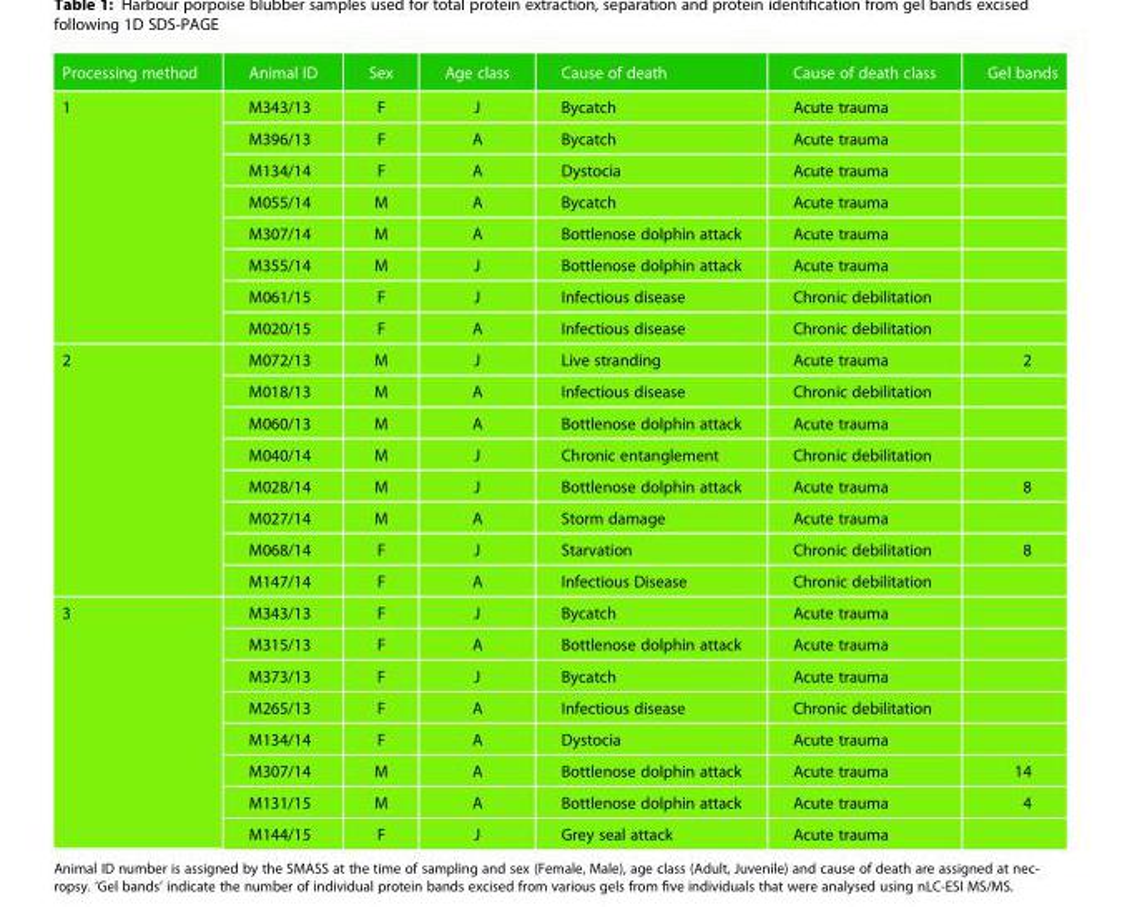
<table><thead><tr><td>Processing method</td><td>Animal ID</td><td>Sex</td><td>Age class</td><td>Cause of death</td><td>Cause of death class</td><td>Gel bands</td></tr></thead><tbody><tr><td rowspan="8">1</td><td>M343/13</td><td>F</td><td>J</td><td>Bycatch</td><td>Acute trauma</td><td></td></tr><tr><td>M396/13</td><td>F</td><td>A</td><td>Bycatch</td><td>Acute trauma</td><td></td></tr><tr><td>M134/14</td><td>F</td><td>A</td><td>Dystocia</td><td>Acute trauma</td><td></td></tr><tr><td>M055/14</td><td>M</td><td>A</td><td>Bycatch</td><td>Acute trauma</td><td></td></tr><tr><td>M307/14</td><td>M</td><td>A</td><td>Bottlenose dolphin attack</td><td>Acute trauma</td><td></td></tr><tr><td>M355/14</td><td>M</td><td>J</td><td>Bottlenose dolphin attack</td><td>Acute trauma</td><td></td></tr><tr><td>M061/15</td><td>F</td><td>J</td><td>Infectious disease</td><td>Chronic debilitation</td><td></td></tr><tr><td>M020/15</td><td>F</td><td>A</td><td>Infectious disease</td><td>Chronic debilitation</td><td></td></tr><tr><td rowspan="8">2</td><td>M072/13</td><td>M</td><td>J</td><td>Live stranding</td><td>Acute trauma</td><td>2</td></tr><tr><td>M018/13</td><td>M</td><td>A</td><td>Infectious disease</td><td>Chronic debilitation</td><td></td></tr><tr><td>M060/13</td><td>M</td><td>A</td><td>Bottlenose dolphin attack</td><td>Acute trauma</td><td></td></tr><tr><td>M040/14</td><td>M</td><td>J</td><td>Chronic entanglement</td><td>Chronic debilitation</td><td></td></tr><tr><td>M028/14</td><td>M</td><td>J</td><td>Bottlenose dolphin attack</td><td>Acute trauma</td><td>8</td></tr><tr><td>M027/14</td><td>M</td><td>A</td><td>Storm damage</td><td>Acute trauma</td><td></td></tr><tr><td>M068/14</td><td>F</td><td>J</td><td>Starvation</td><td>Chronic debilitation</td><td>8</td></tr><tr><td>M147/14</td><td>F</td><td>A</td><td>Infectious Disease</td><td>Chronic debilitation</td><td></td></tr><tr><td rowspan="8">3</td><td>M343/13</td><td>F</td><td>J</td><td>Bycatch</td><td>Acute trauma</td><td></td></tr><tr><td>M315/13</td><td>F</td><td>A</td><td>Bottlenose dolphin attack</td><td>Acute trauma</td><td></td></tr><tr><td>M373/13</td><td>F</td><td>J</td><td>Bycatch</td><td>Acute trauma</td><td></td></tr><tr><td>M265/13</td><td>F</td><td>A</td><td>Infectious disease</td><td>Chronic debilitation</td><td></td></tr><tr><td>M134/14</td><td>F</td><td>A</td><td>Dystocia</td><td>Acute trauma</td><td></td></tr><tr><td>M307/14</td><td>M</td><td>A</td><td>Bottlenose dolphin attack</td><td>Acute trauma</td><td>14</td></tr><tr><td>M131/15</td><td>M</td><td>A</td><td>Bottlenose dolphin attack</td><td>Acute trauma</td><td>4</td></tr><tr><td>M144/15</td><td>F</td><td>J</td><td>Grey seal attack</td><td>Acute trauma</td><td></td></tr></tbody></table>